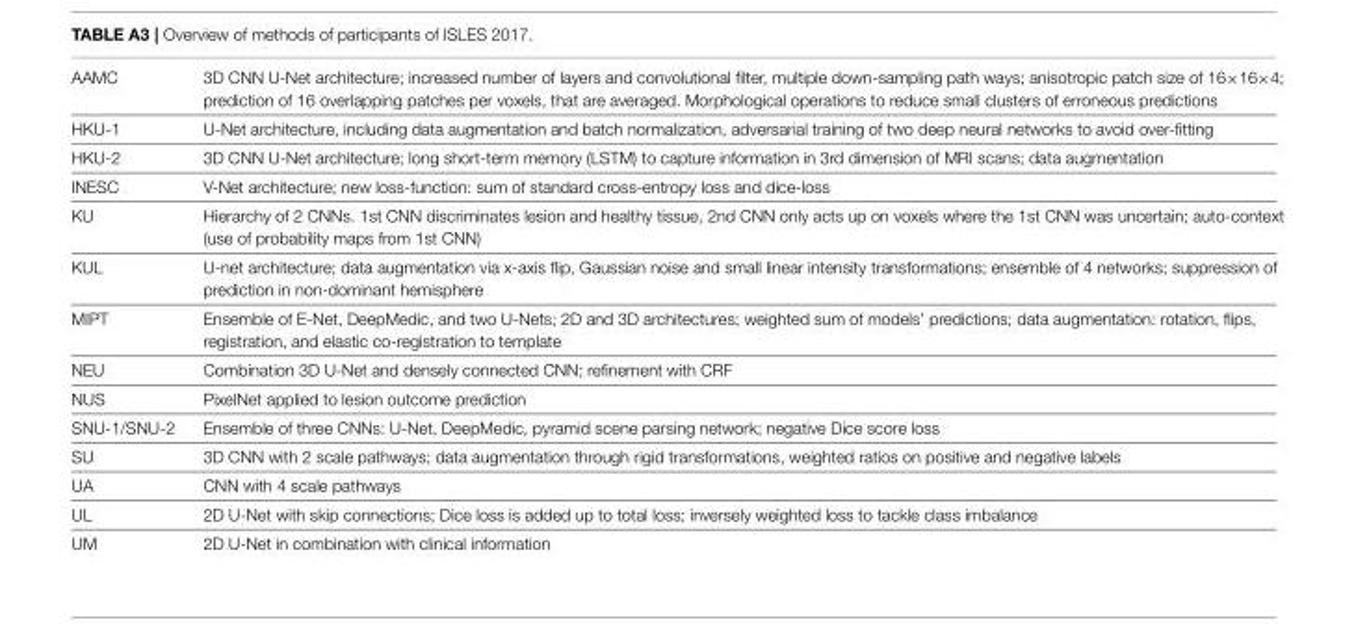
<table><tbody><tr><td>AAMC</td><td>3D CNN U-Net architecture; increased number of layers and convolutional filter, multiple down-sampling path ways; anisotropic patch size of 16×16×4; prediction of 16 overlapping patches per voxels, that are averaged. Morphological operations to reduce small clusters of erroneous predictions</td></tr><tr><td>HKU-1</td><td>U-Net architecture, including data augmentation and batch normalization, adversarial training of two deep neural networks to avoid over-fitting</td></tr><tr><td>HKU-2</td><td>3D CNN U-Net architecture; long short-term memory (LSTM) to capture information in 3rd dimension of MRI scans; data augmentation</td></tr><tr><td>INESC</td><td>V-Net architecture; new loss-function: sum of standard cross-entropy loss and dice-loss</td></tr><tr><td>KU</td><td>Hierarchy of 2 CNNs. 1st CNN discriminates lesion and healthy tissue, 2nd CNN only acts up on voxels where the 1st CNN was uncertain; auto-context (use of probability maps from 1st CNN)</td></tr><tr><td>KUL</td><td>U-net architecture; data augmentation via x-axis flip, Gaussian noise and small linear intensity transformations; ensemble of 4 networks; suppression of prediction in non-dominant hemisphere</td></tr><tr><td>MIPT</td><td>Ensemble of E-Net, DeepMedic, and two U-Nets; 2D and 3D architectures; weighted sum of models’ predictions; data augmentation: rotation, flips, registration, and elastic co-registration to template</td></tr><tr><td>NEU</td><td>Combination 3D U-Net and densely connected CNN; refinement with CRF</td></tr><tr><td>NUS</td><td>PixelNet applied to lesion outcome prediction</td></tr><tr><td>SNU-1/SNU-2</td><td>Ensemble of three CNNs: U-Net, DeepMedic, pyramid scene parsing network; negative Dice score loss</td></tr><tr><td>SU</td><td>3D CNN with 2 scale pathways; data augmentation through rigid transformations, weighted ratios on positive and negative labels</td></tr><tr><td>UA</td><td>CNN with 4 scale pathways</td></tr><tr><td>UL</td><td>2D U-Net with skip connections; Dice loss is added up to total loss; inversely weighted loss to tackle class imbalance</td></tr><tr><td>UM</td><td>2D U-Net in combination with clinical information</td></tr></tbody></table>